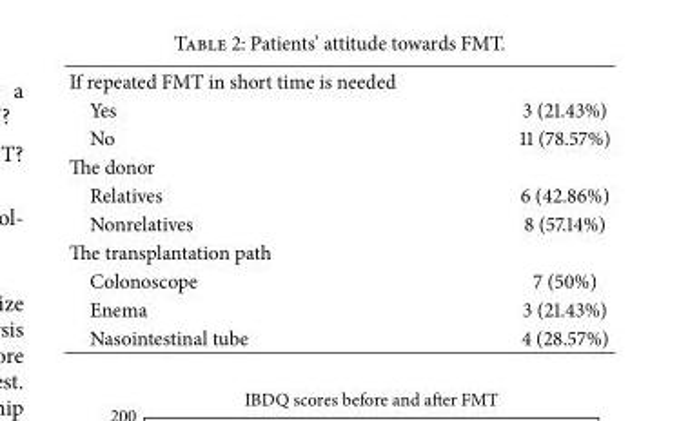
<table><tbody><tr><td colspan="2">If repeated FMT in short time is needed</td></tr><tr><td>Yes</td><td>3 (21.43%)</td></tr><tr><td>No</td><td>11 (78.57%)</td></tr><tr><td colspan="2">The donor</td></tr><tr><td>Relatives</td><td>6 (42.86%)</td></tr><tr><td>Nonrelatives</td><td>8 (57.14%)</td></tr><tr><td colspan="2">The transplantation path</td></tr><tr><td>Colonoscope</td><td>7 (50%)</td></tr><tr><td>Enema</td><td>3 (21.43%)</td></tr><tr><td>Nasointestinal tube</td><td>4 (28.57%)</td></tr></tbody></table>